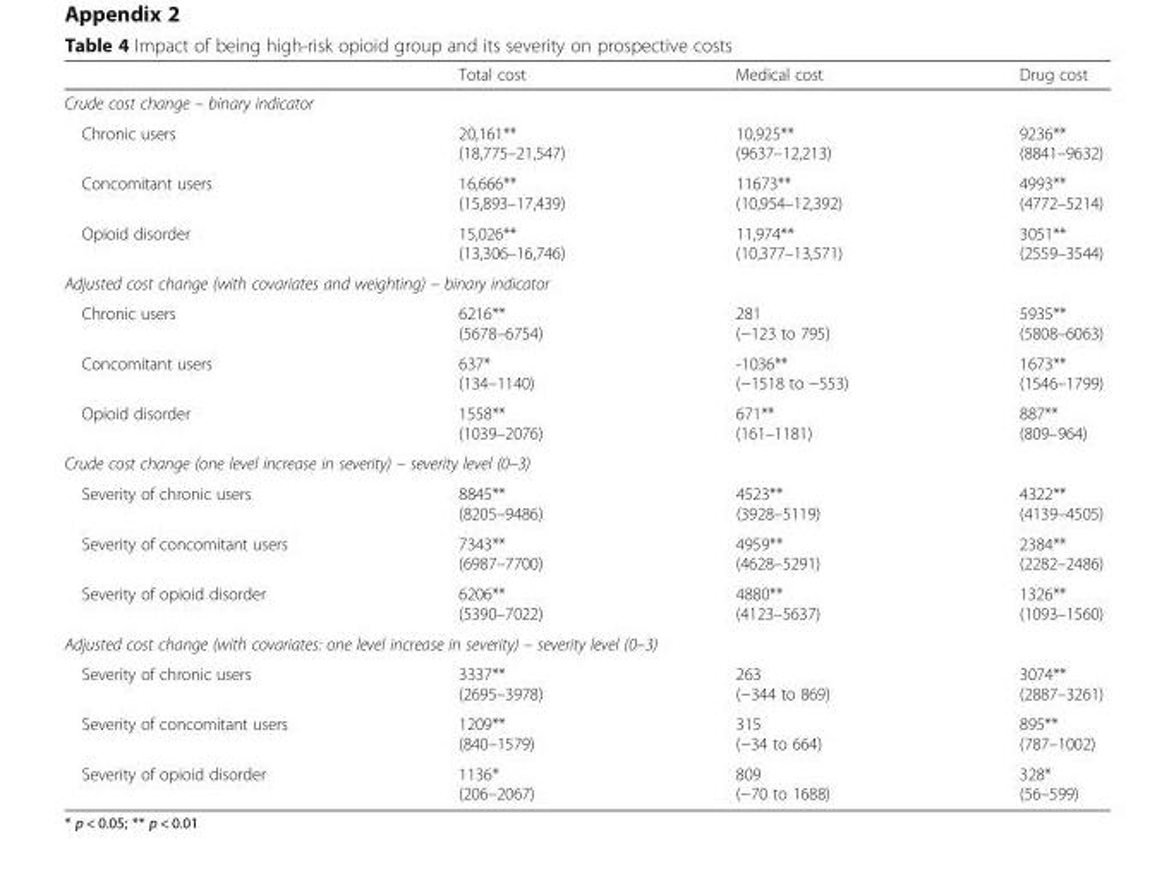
<table><thead><tr><td></td><td>Total cost</td><td>Medical cost</td><td>Drug cost</td></tr></thead><tbody><tr><td colspan="4">Crude cost change – binary indicator</td></tr><tr><td>Chronic users</td><td>20,161** (18,775–21,547)</td><td>10,925** (9637–12,213)</td><td>9236** (8841–9632)</td></tr><tr><td>Concomitant users</td><td>16,666** (15,893–17,439)</td><td>11673** (10,954–12,392)</td><td>4993** (4772–5214)</td></tr><tr><td>Opioid disorder</td><td>15,026** (13,306–16,746)</td><td>11,974** (10,377–13,571)</td><td>3051** (2559–3544)</td></tr><tr><td colspan="4">Adjusted cost change (with covariates and weighting) – binary indicator</td></tr><tr><td>Chronic users</td><td>6216** (5678–6754)</td><td>281 (−123 to 795)</td><td>5935** (5808–6063)</td></tr><tr><td>Concomitant users</td><td>637* (134–1140)</td><td>-1036** (−1518 to −553)</td><td>1673** (1546–1799)</td></tr><tr><td>Opioid disorder</td><td>1558** (1039–2076)</td><td>671** (161–1181)</td><td>887** (809–964)</td></tr><tr><td colspan="4">Crude cost change (one level increase in severity) – severity level (0–3)</td></tr><tr><td>Severity of chronic users</td><td>8845** (8205–9486)</td><td>4523** (3928–5119)</td><td>4322** (4139–4505)</td></tr><tr><td>Severity of concomitant users</td><td>7343** (6987–7700)</td><td>4959** (4628–5291)</td><td>2384** (2282–2486)</td></tr><tr><td>Severity of opioid disorder</td><td>6206** (5390–7022)</td><td>4880** (4123–5637)</td><td>1326** (1093–1560)</td></tr><tr><td colspan="4">Adjusted cost change (with covariates: one level increase in severity) – severity level (0–3)</td></tr><tr><td>Severity of chronic users</td><td>3337** (2695–3978)</td><td>263 (−344 to 869)</td><td>3074** (2887–3261)</td></tr><tr><td>Severity of concomitant users</td><td>1209** (840–1579)</td><td>315 (−34 to 664)</td><td>895** (787–1002)</td></tr><tr><td>Severity of opioid disorder</td><td>1136* (206–2067)</td><td>809 (−70 to 1688)</td><td>328* (56–599)</td></tr></tbody></table>